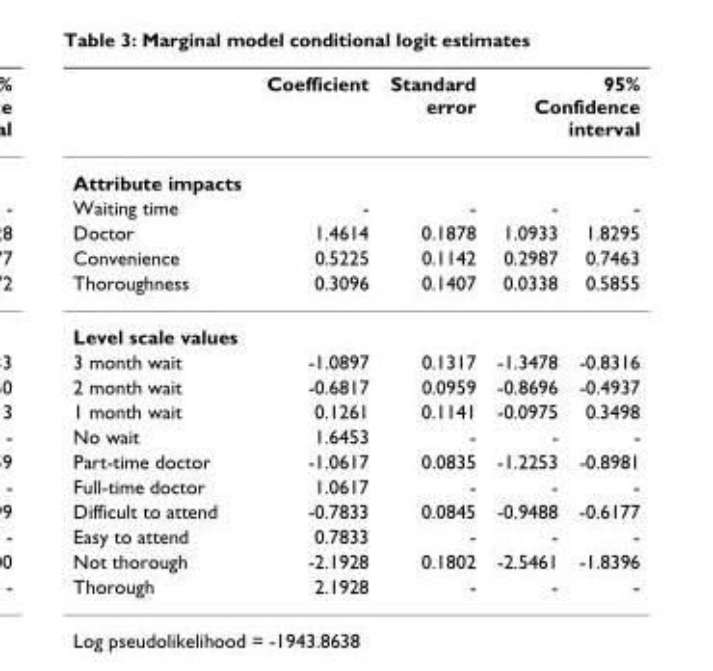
<table><thead><tr><td rowspan="2">Attribute impacts</td><td rowspan="2">Coefficient</td><td rowspan="2">Standard error</td><td colspan="2">95% Confidence interval</td></tr><tr><td></td><td></td></tr></thead><tbody><tr><td>Waiting time</td><td>-</td><td>-</td><td>-</td><td>-</td></tr><tr><td>Doctor</td><td>1.4614</td><td>0.1878</td><td>1.0933</td><td>1.8295</td></tr><tr><td>Convenience</td><td>0.5225</td><td>0.1142</td><td>0.2987</td><td>0.7463</td></tr><tr><td>Thoroughness</td><td>0.3096</td><td>0.1407</td><td>0.0338</td><td>0.5855</td></tr><tr><td colspan="5">Level scale values</td></tr><tr><td>3 month wait</td><td>-1.0897</td><td>0.1317</td><td>-1.3478</td><td>-0.8316</td></tr><tr><td>2 month wait</td><td>-0.6817</td><td>0.0959</td><td>-0.8696</td><td>-0.4937</td></tr><tr><td>1 month wait</td><td>0.1261</td><td>0.1141</td><td>-0.0975</td><td>0.3498</td></tr><tr><td>No wait</td><td>1.6453</td><td>-</td><td>-</td><td>-</td></tr><tr><td>Part-time doctor</td><td>-1.0617</td><td>0.0835</td><td>-1.2253</td><td>-0.8981</td></tr><tr><td>Full-time doctor</td><td>1.0617</td><td>-</td><td>-</td><td>-</td></tr><tr><td>Difficult to attend</td><td>-0.7833</td><td>0.0845</td><td>-0.9488</td><td>-0.6177</td></tr><tr><td>Easy to attend</td><td>0.7833</td><td>-</td><td>-</td><td>-</td></tr><tr><td>Not thorough</td><td>-2.1928</td><td>0.1802</td><td>-2.5461</td><td>-1.8396</td></tr><tr><td>Thorough</td><td>2.1928</td><td>-</td><td>-</td><td>-</td></tr></tbody></table>